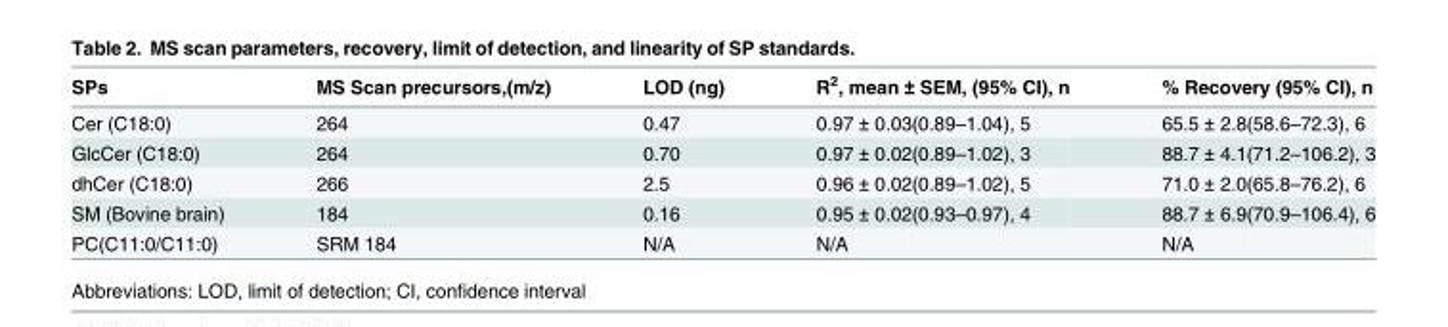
<table><thead><tr><td>SPs</td><td>MS Scan precursors,(m/z)</td><td>LOD (ng)</td><td>R<sup>2</sup>, mean ± SEM, (95% CI), n</td><td>% Recovery (95% CI), n</td></tr></thead><tbody><tr><td>Cer (C18:0)</td><td>264</td><td>0.47</td><td>0.97 ± 0.03(0.89–1.04), 5</td><td>65.5 ± 2.8(58.6–72.3), 6</td></tr><tr><td>GlcCer (C18:0)</td><td>264</td><td>0.70</td><td>0.97 ± 0.02(0.89–1.02), 3</td><td>88.7 ± 4.1(71.2–106.2), 3</td></tr><tr><td>dhCer (C18:0)</td><td>266</td><td>2.5</td><td>0.96 ± 0.02(0.89–1.02), 5</td><td>71.0 ± 2.0(65.8–76.2), 6</td></tr><tr><td>SM (Bovine brain)</td><td>184</td><td>0.16</td><td>0.95 ± 0.02(0.93–0.97), 4</td><td>88.7 ± 6.9(70.9–106.4), 6</td></tr><tr><td>PC(C11:0/C11:0)</td><td>SRM 184</td><td>N/A</td><td>N/A</td><td>N/A</td></tr></tbody></table>